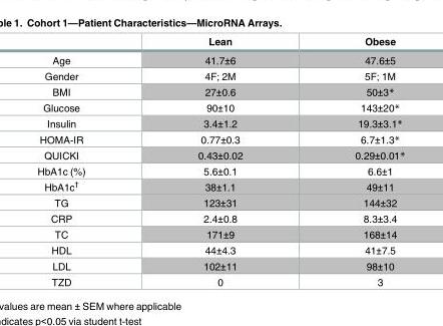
<table><thead><tr><td></td><td>Lean</td><td>Obese</td></tr></thead><tbody><tr><td>Age</td><td>41.7±6</td><td>47.6±5</td></tr><tr><td>Gender</td><td>4F; 2M</td><td>5F; 1M</td></tr><tr><td>BMI</td><td>27±0.6</td><td>50±3*</td></tr><tr><td>Glucose</td><td>90±10</td><td>143±20*</td></tr><tr><td>Insulin</td><td>3.4±1.2</td><td>19.3±3.1*</td></tr><tr><td>HOMA-IR</td><td>0.77±0.3</td><td>6.7±1.3*</td></tr><tr><td>QUICKI</td><td>0.43±0.02</td><td>0.29±0.01*</td></tr><tr><td>HbA1c (%)</td><td>5.6±0.1</td><td>6.6±1</td></tr><tr><td>HbA1c<sup>†</sup></td><td>38±1.1</td><td>49±11</td></tr><tr><td>TG</td><td>123±31</td><td>144±32</td></tr><tr><td>CRP</td><td>2.4±0.8</td><td>8.3±3.4</td></tr><tr><td>TC</td><td>171±9</td><td>168±14</td></tr><tr><td>HDL</td><td>44±4.3</td><td>41±7.5</td></tr><tr><td>LDL</td><td>102±11</td><td>98±10</td></tr><tr><td>TZD</td><td>0</td><td>3</td></tr></tbody></table>